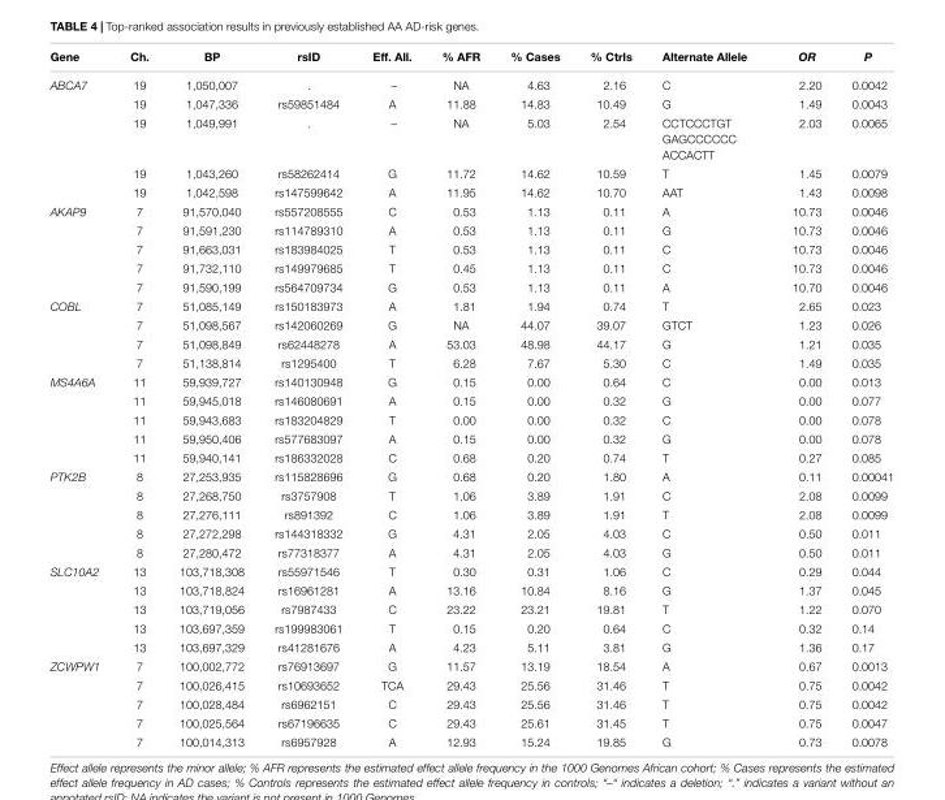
<table><thead><tr><td>Gene</td><td>Ch.</td><td>BP</td><td>rsID</td><td>Eff. All.</td><td>% AFR</td><td>% Cases</td><td>% Ctrls</td><td>Alternate Allele</td><td>OR</td><td>P</td></tr></thead><tbody><tr><td rowspan="5">ABCA7</td><td>19</td><td>1,050,007</td><td>.</td><td>–</td><td>NA</td><td>4.63</td><td>2.16</td><td>C</td><td>2.20</td><td>0.0042</td></tr><tr><td>19</td><td>1,047,336</td><td>rs59851484</td><td>A</td><td>11.88</td><td>14.83</td><td>10.49</td><td>G</td><td>1.49</td><td>0.0043</td></tr><tr><td>19</td><td>1,049,991</td><td>.</td><td>–</td><td>NA</td><td>5.03</td><td>2.54</td><td>CCTCCCTGT GAGCCCCCC ACCACTT</td><td>2.03</td><td>0.0065</td></tr><tr><td>19</td><td>1,043,260</td><td>rs58262414</td><td>G</td><td>11.72</td><td>14.62</td><td>10.59</td><td>T</td><td>1.45</td><td>0.0079</td></tr><tr><td>19</td><td>1,042,598</td><td>rs147599642</td><td>A</td><td>11.95</td><td>14.62</td><td>10.70</td><td>AAT</td><td>1.43</td><td>0.0098</td></tr><tr><td rowspan="5">AKAP9</td><td>7</td><td>91,570,040</td><td>rs557208555</td><td>C</td><td>0.53</td><td>1.13</td><td>0.11</td><td>A</td><td>10.73</td><td>0.0046</td></tr><tr><td>7</td><td>91,591,230</td><td>rs114789310</td><td>A</td><td>0.53</td><td>1.13</td><td>0.11</td><td>G</td><td>10.73</td><td>0.0046</td></tr><tr><td>7</td><td>91,663,031</td><td>rs183984025</td><td>T</td><td>0.53</td><td>1.13</td><td>0.11</td><td>C</td><td>10.73</td><td>0.0046</td></tr><tr><td>7</td><td>91,732,110</td><td>rs149979685</td><td>T</td><td>0.45</td><td>1.13</td><td>0.11</td><td>C</td><td>10.73</td><td>0.0046</td></tr><tr><td>7</td><td>91,590,199</td><td>rs564709734</td><td>G</td><td>0.53</td><td>1.13</td><td>0.11</td><td>A</td><td>10.70</td><td>0.0046</td></tr><tr><td rowspan="4">COBL</td><td>7</td><td>51,085,149</td><td>rs150183973</td><td>A</td><td>1.81</td><td>1.94</td><td>0.74</td><td>T</td><td>2.65</td><td>0.023</td></tr><tr><td>7</td><td>51,098,567</td><td>rs142060269</td><td>G</td><td>NA</td><td>44.07</td><td>39.07</td><td>GTCT</td><td>1.23</td><td>0.026</td></tr><tr><td>7</td><td>51,098,849</td><td>rs62448278</td><td>A</td><td>53.03</td><td>48.98</td><td>44.17</td><td>G</td><td>1.21</td><td>0.035</td></tr><tr><td>7</td><td>51,138,814</td><td>rs1295400</td><td>T</td><td>6.28</td><td>7.67</td><td>5.30</td><td>C</td><td>1.49</td><td>0.035</td></tr><tr><td rowspan="5">MS4A6A</td><td>11</td><td>59,939,727</td><td>rs140130948</td><td>G</td><td>0.15</td><td>0.00</td><td>0.64</td><td>C</td><td>0.00</td><td>0.013</td></tr><tr><td>11</td><td>59,945,018</td><td>rs146080691</td><td>A</td><td>0.15</td><td>0.00</td><td>0.32</td><td>G</td><td>0.00</td><td>0.077</td></tr><tr><td>11</td><td>59,943,683</td><td>rs183204829</td><td>T</td><td>0.00</td><td>0.00</td><td>0.32</td><td>C</td><td>0.00</td><td>0.078</td></tr><tr><td>11</td><td>59,950,406</td><td>rs577683097</td><td>A</td><td>0.15</td><td>0.00</td><td>0.32</td><td>G</td><td>0.00</td><td>0.078</td></tr><tr><td>11</td><td>59,940,141</td><td>rs186332028</td><td>C</td><td>0.68</td><td>0.20</td><td>0.74</td><td>T</td><td>0.27</td><td>0.085</td></tr><tr><td rowspan="5">PTK2B</td><td>8</td><td>27,253,935</td><td>rs115828696</td><td>G</td><td>0.68</td><td>0.20</td><td>1.80</td><td>A</td><td>0.11</td><td>0.00041</td></tr><tr><td>8</td><td>27,268,750</td><td>rs3757908</td><td>T</td><td>1.06</td><td>3.89</td><td>1.91</td><td>C</td><td>2.08</td><td>0.0099</td></tr><tr><td>8</td><td>27,276,111</td><td>rs891392</td><td>C</td><td>1.06</td><td>3.89</td><td>1.91</td><td>T</td><td>2.08</td><td>0.0099</td></tr><tr><td>8</td><td>27,272,298</td><td>rs144318332</td><td>G</td><td>4.31</td><td>2.05</td><td>4.03</td><td>C</td><td>0.50</td><td>0.011</td></tr><tr><td>8</td><td>27,280,472</td><td>rs77318377</td><td>A</td><td>4.31</td><td>2.05</td><td>4.03</td><td>G</td><td>0.50</td><td>0.011</td></tr><tr><td rowspan="5">SLC10A2</td><td>13</td><td>103,718,308</td><td>rs55971546</td><td>T</td><td>0.30</td><td>0.31</td><td>1.06</td><td>C</td><td>0.29</td><td>0.044</td></tr><tr><td>13</td><td>103,718,824</td><td>rs16961281</td><td>A</td><td>13.16</td><td>10.84</td><td>8.16</td><td>G</td><td>1.37</td><td>0.045</td></tr><tr><td>13</td><td>103,719,056</td><td>rs7987433</td><td>C</td><td>23.22</td><td>23.21</td><td>19.81</td><td>T</td><td>1.22</td><td>0.070</td></tr><tr><td>13</td><td>103,697,359</td><td>rs199983061</td><td>T</td><td>0.15</td><td>0.20</td><td>0.64</td><td>C</td><td>0.32</td><td>0.14</td></tr><tr><td>13</td><td>103,697,329</td><td>rs41281676</td><td>A</td><td>4.23</td><td>5.11</td><td>3.81</td><td>G</td><td>1.36</td><td>0.17</td></tr><tr><td rowspan="5">ZCWPW1</td><td>7</td><td>100,002,772</td><td>rs76913697</td><td>G</td><td>11.57</td><td>13.19</td><td>18.54</td><td>A</td><td>0.67</td><td>0.0013</td></tr><tr><td>7</td><td>100,026,415</td><td>rs10693652</td><td>TCA</td><td>29.43</td><td>25.56</td><td>31.46</td><td>T</td><td>0.75</td><td>0.0042</td></tr><tr><td>7</td><td>100,028,484</td><td>rs6962151</td><td>C</td><td>29.43</td><td>25.56</td><td>31.46</td><td>T</td><td>0.75</td><td>0.0042</td></tr><tr><td>7</td><td>100,025,564</td><td>rs67196635</td><td>C</td><td>29.43</td><td>25.61</td><td>31.45</td><td>T</td><td>0.75</td><td>0.0047</td></tr><tr><td>7</td><td>100,014,313</td><td>rs6957928</td><td>A</td><td>12.93</td><td>15.24</td><td>19.85</td><td>G</td><td>0.73</td><td>0.0078</td></tr></tbody></table>